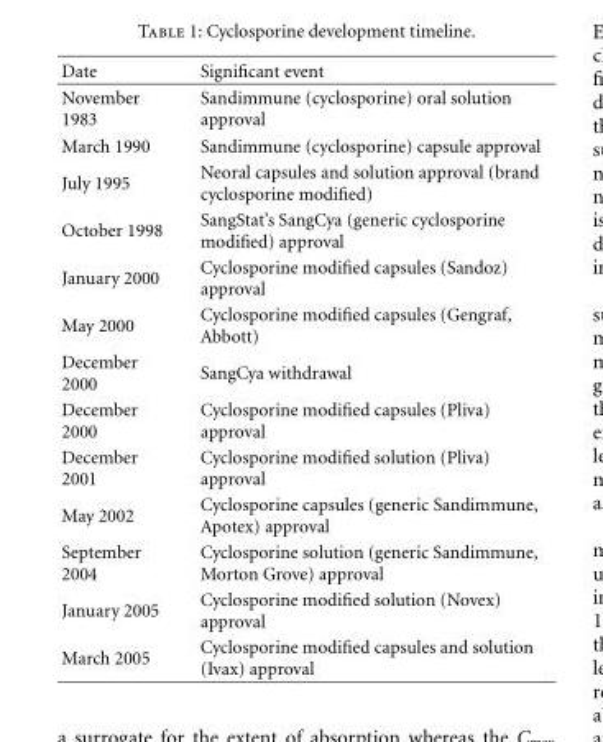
<table><thead><tr><td>Date</td><td>Significant event</td></tr></thead><tbody><tr><td>November 1983</td><td>Sandimmune (cyclosporine) oral solution approval</td></tr><tr><td>March 1990</td><td>Sandimmune (cyclosporine) capsule approval</td></tr><tr><td>July 1995</td><td>Neoral capsules and solution approval (brand cyclosporine modified)</td></tr><tr><td>October 1998</td><td>SangStat’s SangCya (generic cyclosporine modified) approval</td></tr><tr><td>January 2000</td><td>Cyclosporine modified capsules (Sandoz) approval</td></tr><tr><td>May 2000</td><td>Cyclosporine modified capsules (Gengraf, Abbott)</td></tr><tr><td>December 2000</td><td>SangCya withdrawal</td></tr><tr><td>December 2000</td><td>Cyclosporine modified capsules (Pliva) approval</td></tr><tr><td>December 2001</td><td>Cyclosporine modified solution (Pliva) approval</td></tr><tr><td>May 2002</td><td>Cyclosporine capsules (generic Sandimmune, Apotex) approval</td></tr><tr><td>September 2004</td><td>Cyclosporine solution (generic Sandimmune, Morton Grove) approval</td></tr><tr><td>January 2005</td><td>Cyclosporine modified solution (Novex) approval</td></tr><tr><td>March 2005</td><td>Cyclosporine modified capsules and solution (Ivax) approval</td></tr></tbody></table>